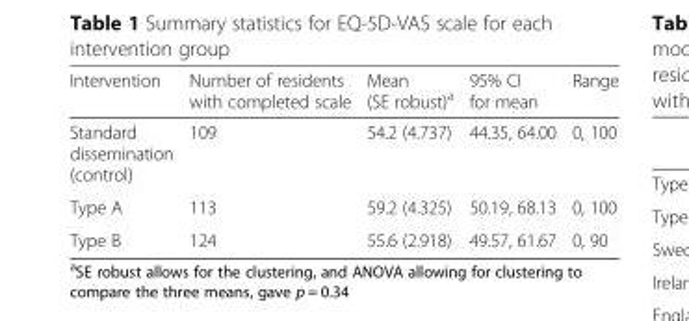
<table><thead><tr><td>Intervention</td><td>Number of residents with completed scale</td><td>Mean (SE robust)<sup>a</sup></td><td>95% CI for mean</td><td>Range</td></tr></thead><tbody><tr><td>Standard dissemination (control)</td><td>109</td><td>54.2 (4.737)</td><td>44.35, 64.00</td><td>0, 100</td></tr><tr><td>Type A</td><td>113</td><td>59.2 (4.325)</td><td>50.19, 68.13</td><td>0, 100</td></tr><tr><td>Type B</td><td>124</td><td>55.6 (2.918)</td><td>49.57, 61.67</td><td>0, 90</td></tr></tbody></table>